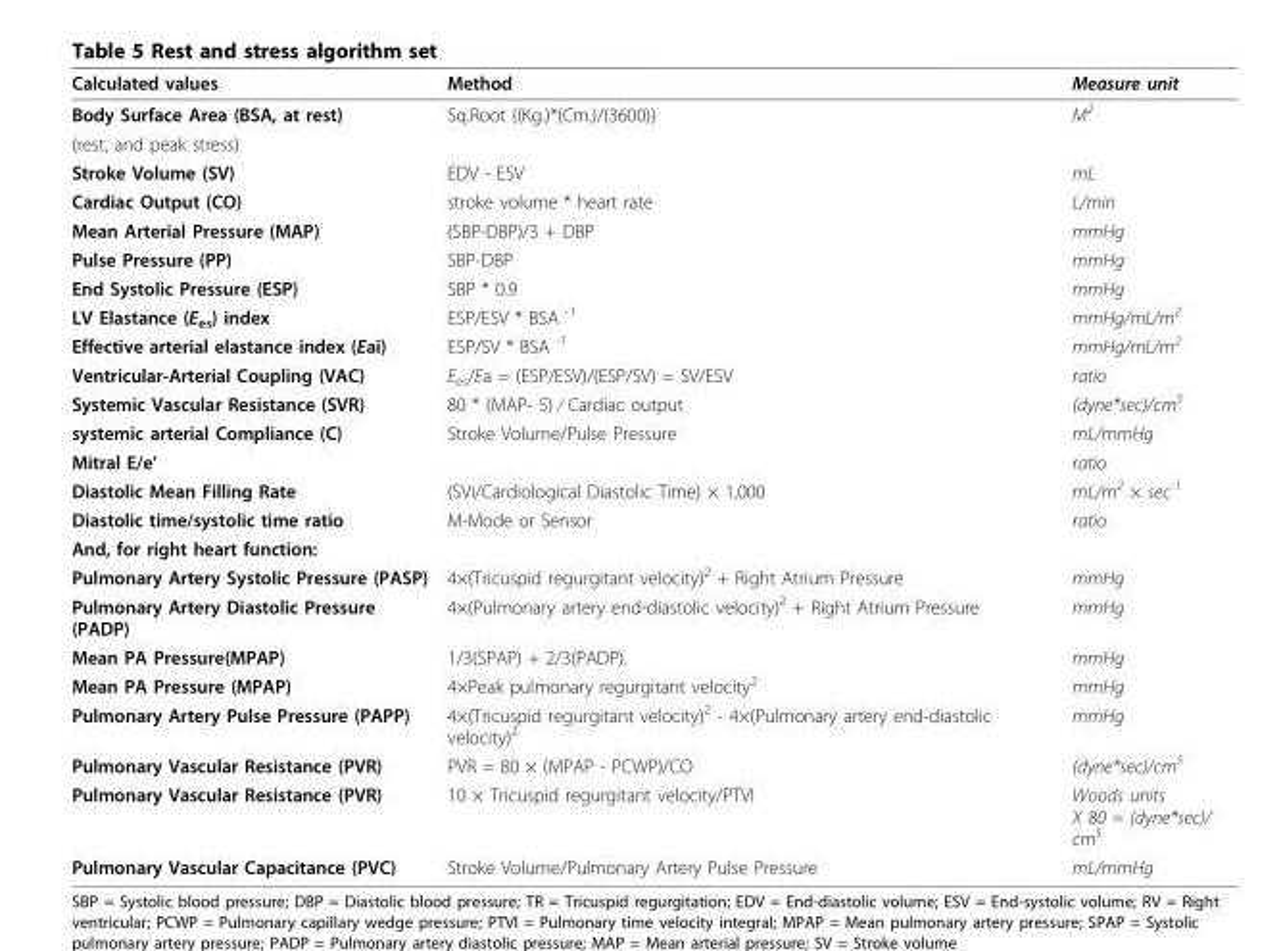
<table><thead><tr><td>Calculated values</td><td>Method</td><td>Measure unit</td></tr></thead><tbody><tr><td>Body Surface Area (BSA, at rest)</td><td>Sq.Root {(Kg.)*(Cm.)/(3600)}</td><td>M<sup>2</sup></td></tr><tr><td colspan="3">(rest, and peak stress)</td></tr><tr><td>Stroke Volume (SV)</td><td>EDV - ESV</td><td>mL</td></tr><tr><td>Cardiac Output (CO)</td><td>stroke volume * heart rate</td><td>L/min</td></tr><tr><td>Mean Arterial Pressure (MAP)</td><td>(SBP-DBP)/3 + DBP</td><td>mmHg</td></tr><tr><td>Pulse Pressure (PP)</td><td>SBP-DBP</td><td>mmHg</td></tr><tr><td>End Systolic Pressure (ESP)</td><td>SBP * 0.9</td><td>mmHg</td></tr><tr><td>LV Elastance (E<sub>es</sub>) index</td><td>ESP/ESV * BSA <sup>-1</sup></td><td>mmHg/mL/m<sup>2</sup></td></tr><tr><td>Effective arterial elastance index (Eai)</td><td>ESP/SV * BSA <sup>-1</sup></td><td>mmHg/mL/m<sup>2</sup></td></tr><tr><td>Ventricular-Arterial Coupling (VAC)</td><td>E<sub>es</sub>/Ea = (ESP/ESV)/(ESP/SV) = SV/ESV</td><td>ratio</td></tr><tr><td>Systemic Vascular Resistance (SVR)</td><td>80 * (MAP- 5) ⁄ Cardiac output</td><td>(dyne*sec)/cm<sup>5</sup></td></tr><tr><td>systemic arterial Compliance (C)</td><td>Stroke Volume/Pulse Pressure</td><td>mL/mmHg</td></tr><tr><td>Mitral E/e’</td><td></td><td>ratio</td></tr><tr><td>Diastolic Mean Filling Rate</td><td>(SVi/Cardiological Diastolic Time) × 1,000</td><td>mL/m<sup>2</sup> × sec<sup>-1</sup></td></tr><tr><td>Diastolic time/systolic time ratio</td><td>M-Mode or Sensor</td><td>ratio</td></tr><tr><td colspan="3">And, for right heart function:</td></tr><tr><td>Pulmonary Artery Systolic Pressure (PASP)</td><td>4×(Tricuspid regurgitant velocity)<sup>2</sup> + Right Atrium Pressure</td><td>mmHg</td></tr><tr><td>Pulmonary Artery Diastolic Pressure (PADP)</td><td>4×(Pulmonary artery end-diastolic velocity)<sup>2</sup> + Right Atrium Pressure</td><td>mmHg</td></tr><tr><td>Mean PA Pressure(MPAP)</td><td>1/3(SPAP) + 2/3(PADP).</td><td>mmHg</td></tr><tr><td>Mean PA Pressure (MPAP)</td><td>4×Peak pulmonary regurgitant velocity<sup>2</sup></td><td>mmHg</td></tr><tr><td>Pulmonary Artery Pulse Pressure (PAPP)</td><td>4×(Tricuspid regurgitant velocity)<sup>2</sup> - 4×(Pulmonary artery end-diastolic velocity)<sup>2</sup></td><td>mmHg</td></tr><tr><td>Pulmonary Vascular Resistance (PVR)</td><td>PVR = 80 × (MPAP - PCWP)/CO</td><td>(dyne*sec)/cm<sup>5</sup></td></tr><tr><td>Pulmonary Vascular Resistance (PVR)</td><td>10 × Tricuspid regurgitant velocity/PTVI</td><td>Woods units X 80 = (dyne*sec)/ cm<sup>5</sup></td></tr><tr><td>Pulmonary Vascular Capacitance (PVC)</td><td>Stroke Volume/Pulmonary Artery Pulse Pressure</td><td>mL/mmHg</td></tr></tbody></table>